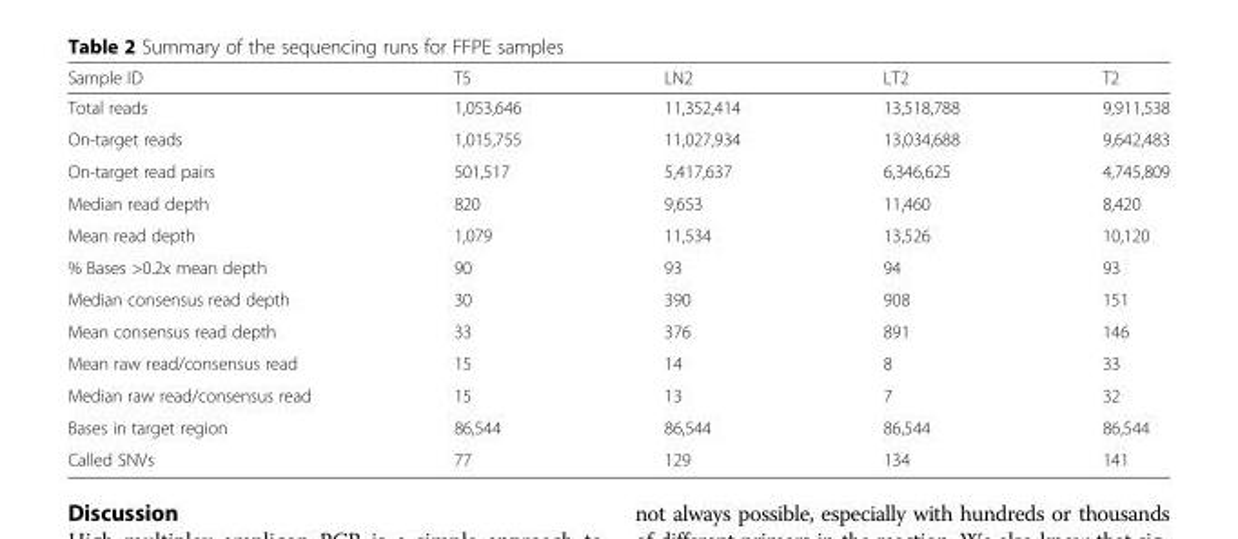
<table><thead><tr><td>Sample ID</td><td>T5</td><td>LN2</td><td>LT2</td><td>T2</td></tr></thead><tbody><tr><td>Total reads</td><td>1,053,646</td><td>11,352,414</td><td>13,518,788</td><td>9,911,538</td></tr><tr><td>On-target reads</td><td>1,015,755</td><td>11,027,934</td><td>13,034,688</td><td>9,642,483</td></tr><tr><td>On-target read pairs</td><td>501,517</td><td>5,417,637</td><td>6,346,625</td><td>4,745,809</td></tr><tr><td>Median read depth</td><td>820</td><td>9,653</td><td>11,460</td><td>8,420</td></tr><tr><td>Mean read depth</td><td>1,079</td><td>11,534</td><td>13,526</td><td>10,120</td></tr><tr><td>% Bases &gt;0.2x mean depth</td><td>90</td><td>93</td><td>94</td><td>93</td></tr><tr><td>Median consensus read depth</td><td>30</td><td>390</td><td>908</td><td>151</td></tr><tr><td>Mean consensus read depth</td><td>33</td><td>376</td><td>891</td><td>146</td></tr><tr><td>Mean raw read/consensus read</td><td>15</td><td>14</td><td>8</td><td>33</td></tr><tr><td>Median raw read/consensus read</td><td>15</td><td>13</td><td>7</td><td>32</td></tr><tr><td>Bases in target region</td><td>86,544</td><td>86,544</td><td>86,544</td><td>86,544</td></tr><tr><td>Called SNVs</td><td>77</td><td>129</td><td>134</td><td>141</td></tr></tbody></table>